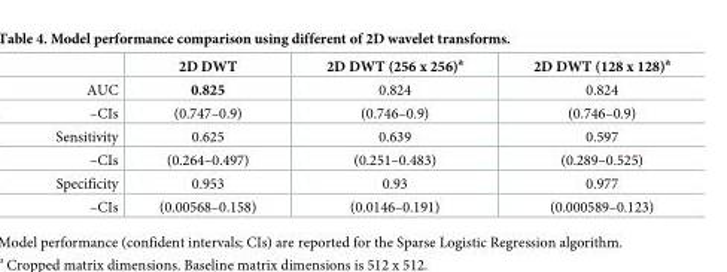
<table><thead><tr><td></td><td>2D DWT</td><td>2D DWT (256 x 256)<sup>a</sup></td><td>2D DWT (128 x 128)<sup>a</sup></td></tr></thead><tbody><tr><td>AUC</td><td>0.825</td><td>0.824</td><td>0.824</td></tr><tr><td>–CIs</td><td>(0.747–0.9)</td><td>(0.746–0.9)</td><td>(0.746–0.9)</td></tr><tr><td>Sensitivity</td><td>0.625</td><td>0.639</td><td>0.597</td></tr><tr><td>–CIs</td><td>(0.264–0.497)</td><td>(0.251–0.483)</td><td>(0.289–0.525)</td></tr><tr><td>Specificity</td><td>0.953</td><td>0.93</td><td>0.977</td></tr><tr><td>–CIs</td><td>(0.00568–0.158)</td><td>(0.0146–0.191)</td><td>(0.000589–0.123)</td></tr></tbody></table>